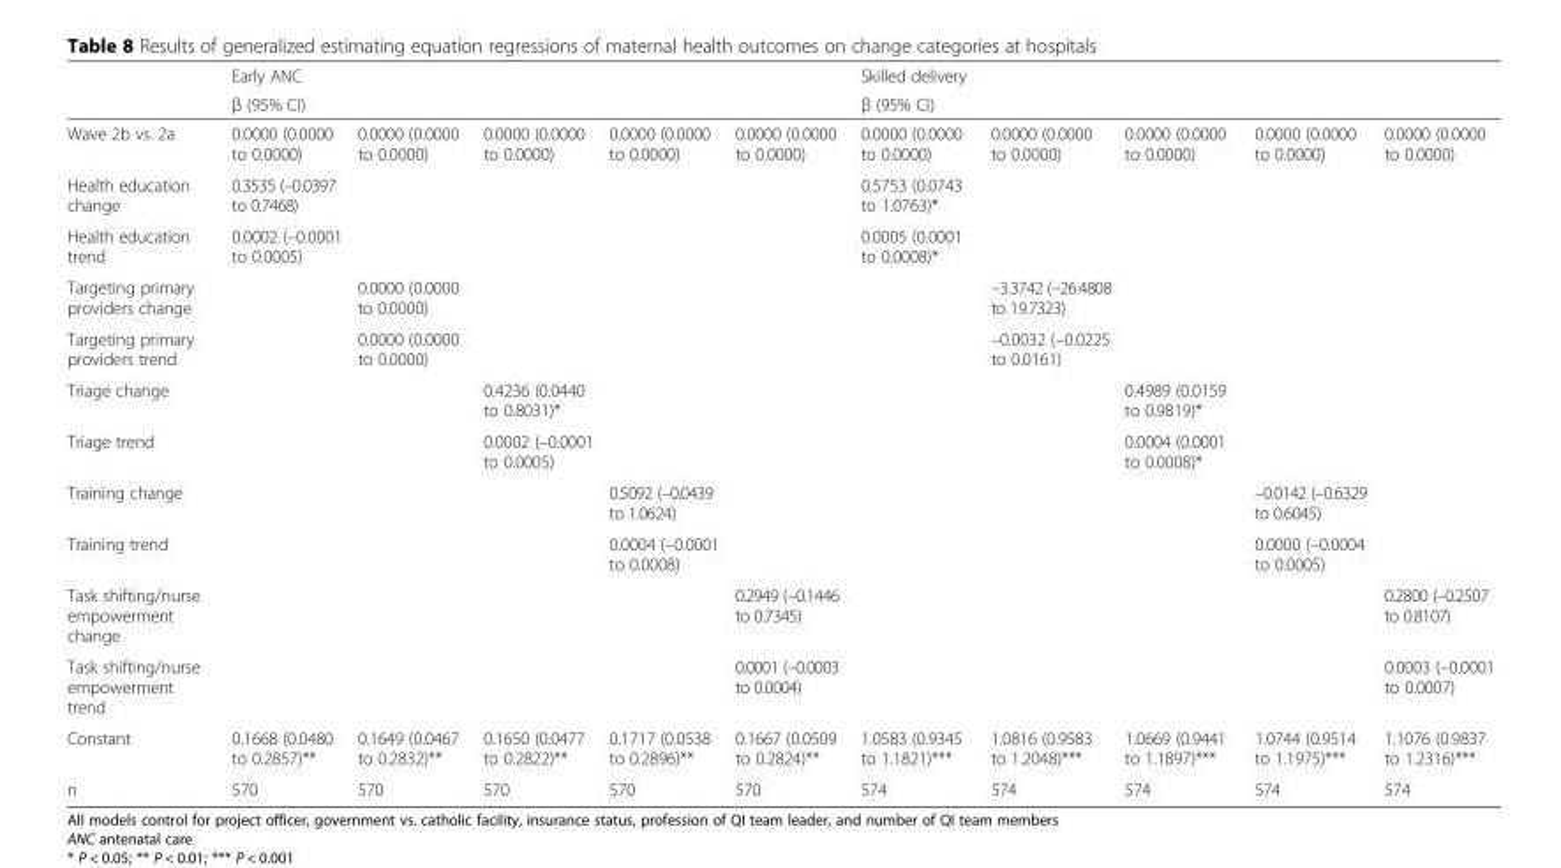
<table><thead><tr><td rowspan="3">Wave 2b vs. 2a</td><td rowspan="2" colspan="5">Early ANC β (95% CI)</td><td rowspan="2" colspan="5">Skilled delivery β (95% CI)</td></tr><tr></tr><tr><td>0.0000 (0.0000 to 0.0000)</td><td>0.0000 (0.0000 to 0.0000)</td><td>0.0000 (0.0000 to 0.0000)</td><td>0.0000 (0.0000 to 0.0000)</td><td>0.0000 (0.0000 to 0.0000)</td><td>0.0000 (0.0000 to 0.0000)</td><td>0.0000 (0.0000 to 0.0000)</td><td>0.0000 (0.0000 to 0.0000)</td><td>0.0000 (0.0000 to 0.0000)</td><td>0.0000 (0.0000 to 0.0000)</td></tr></thead><tbody><tr><td>Health education change</td><td>0.3535 (–0.0397 to 0.7468)</td><td></td><td></td><td></td><td></td><td>0.5753 (0.0743 to 1.0763)*</td><td></td><td></td><td></td><td></td></tr><tr><td>Health education trend</td><td>0.0002 (–0.0001 to 0.0005)</td><td></td><td></td><td></td><td></td><td>0.0005 (0.0001 to 0.0008)*</td><td></td><td></td><td></td><td></td></tr><tr><td>Targeting primary providers change</td><td></td><td>0.0000 (0.0000 to 0.0000)</td><td></td><td></td><td></td><td></td><td>–3.3742 (–26.4808 to 19.7323)</td><td></td><td></td><td></td></tr><tr><td>Targeting primary providers trend</td><td></td><td>0.0000 (0.0000 to 0.0000)</td><td></td><td></td><td></td><td></td><td>–0.0032 (–0.0225 to 0.0161)</td><td></td><td></td><td></td></tr><tr><td>Triage change</td><td></td><td></td><td>0.4236 (0.0440 to 0.8031)*</td><td></td><td></td><td></td><td></td><td>0.4989 (0.0159 to 0.9819)*</td><td></td><td></td></tr><tr><td>Triage trend</td><td></td><td></td><td>0.0002 (–0.0001 to 0.0005)</td><td></td><td></td><td></td><td></td><td>0.0004 (0.0001 to 0.0008)*</td><td></td><td></td></tr><tr><td>Training change</td><td></td><td></td><td></td><td>0.5092 (–0.0439 to 1.0624)</td><td></td><td></td><td></td><td></td><td>–0.0142 (–0.6329 to 0.6045)</td><td></td></tr><tr><td>Training trend</td><td></td><td></td><td></td><td>0.0004 (–0.0001 to 0.0008)</td><td></td><td></td><td></td><td></td><td>0.0000 (–0.0004 to 0.0005)</td><td></td></tr><tr><td>Task shifting/nurse empowerment change</td><td></td><td></td><td></td><td></td><td>0.2949 (–0.1446 to 0.7345)</td><td></td><td></td><td></td><td></td><td>0.2800 (–0.2507 to 0.8107)</td></tr><tr><td>Task shifting/nurse empowerment trend</td><td></td><td></td><td></td><td></td><td>0.0001 (–0.0003 to 0.0004)</td><td></td><td></td><td></td><td></td><td>0.0003 (–0.0001 to 0.0007)</td></tr><tr><td>Constant</td><td>0.1668 (0.0480 to 0.2857)**</td><td>0.1649 (0.0467 to 0.2832)**</td><td>0.1650 (0.0477 to 0.2822)**</td><td>0.1717 (0.0538 to 0.2896)**</td><td>0.1667 (0.0509 to 0.2824)**</td><td>1.0583 (0.9345 to 1.1821)***</td><td>1.0816 (0.9583 to 1.2048)***</td><td>1.0669 (0.9441 to 1.1897)***</td><td>1.0744 (0.9514 to 1.1975)***</td><td>1.1076 (0.9837 to 1.2316)***</td></tr><tr><td>n</td><td>570</td><td>570</td><td>570</td><td>570</td><td>570</td><td>574</td><td>574</td><td>574</td><td>574</td><td>574</td></tr></tbody></table>